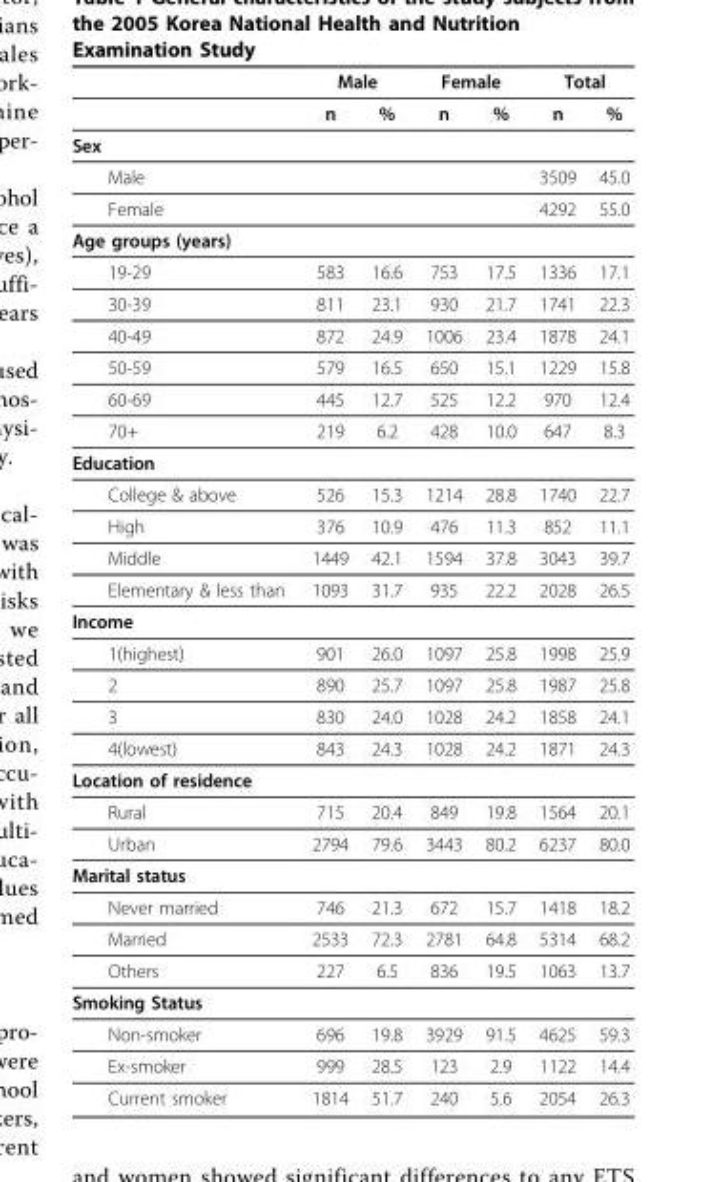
<table><thead><tr><td rowspan="2"></td><td colspan="2">Male</td><td colspan="2">Female</td><td colspan="2">Total</td></tr><tr><td>n</td><td>%</td><td>n</td><td>%</td><td>n</td><td>%</td></tr></thead><tbody><tr><td colspan="7">Sex</td></tr><tr><td>Male</td><td></td><td></td><td></td><td></td><td>3509</td><td>45.0</td></tr><tr><td>Female</td><td></td><td></td><td></td><td></td><td>4292</td><td>55.0</td></tr><tr><td colspan="7">Age groups (years)</td></tr><tr><td>19-29</td><td>583</td><td>16.6</td><td>753</td><td>17.5</td><td>1336</td><td>17.1</td></tr><tr><td>30-39</td><td>811</td><td>23.1</td><td>930</td><td>21.7</td><td>1741</td><td>22.3</td></tr><tr><td>40-49</td><td>872</td><td>24.9</td><td>1006</td><td>23.4</td><td>1878</td><td>24.1</td></tr><tr><td>50-59</td><td>579</td><td>16.5</td><td>650</td><td>15.1</td><td>1229</td><td>15.8</td></tr><tr><td>60-69</td><td>445</td><td>12.7</td><td>525</td><td>12.2</td><td>970</td><td>12.4</td></tr><tr><td>70+</td><td>219</td><td>6.2</td><td>428</td><td>10.0</td><td>647</td><td>8.3</td></tr><tr><td colspan="7">Education</td></tr><tr><td>College &amp; above</td><td>526</td><td>15.3</td><td>1214</td><td>28.8</td><td>1740</td><td>22.7</td></tr><tr><td>High</td><td>376</td><td>10.9</td><td>476</td><td>11.3</td><td>852</td><td>11.1</td></tr><tr><td>Middle</td><td>1449</td><td>42.1</td><td>1594</td><td>37.8</td><td>3043</td><td>39.7</td></tr><tr><td>Elementary &amp; less than</td><td>1093</td><td>31.7</td><td>935</td><td>22.2</td><td>2028</td><td>26.5</td></tr><tr><td colspan="7">Income</td></tr><tr><td>1(highest)</td><td>901</td><td>26.0</td><td>1097</td><td>25.8</td><td>1998</td><td>25.9</td></tr><tr><td>2</td><td>890</td><td>25.7</td><td>1097</td><td>25.8</td><td>1987</td><td>25.8</td></tr><tr><td>3</td><td>830</td><td>24.0</td><td>1028</td><td>24.2</td><td>1858</td><td>24.1</td></tr><tr><td>4(lowest)</td><td>843</td><td>24.3</td><td>1028</td><td>24.2</td><td>1871</td><td>24.3</td></tr><tr><td colspan="7">Location of residence</td></tr><tr><td>Rural</td><td>715</td><td>20.4</td><td>849</td><td>19.8</td><td>1564</td><td>20.1</td></tr><tr><td>Urban</td><td>2794</td><td>79.6</td><td>3443</td><td>80.2</td><td>6237</td><td>80.0</td></tr><tr><td colspan="7">Marital status</td></tr><tr><td>Never married</td><td>746</td><td>21.3</td><td>672</td><td>15.7</td><td>1418</td><td>18.2</td></tr><tr><td>Married</td><td>2533</td><td>72.3</td><td>2781</td><td>64.8</td><td>5314</td><td>68.2</td></tr><tr><td>Others</td><td>227</td><td>6.5</td><td>836</td><td>19.5</td><td>1063</td><td>13.7</td></tr><tr><td colspan="7">Smoking Status</td></tr><tr><td>Non-smoker</td><td>696</td><td>19.8</td><td>3929</td><td>91.5</td><td>4625</td><td>59.3</td></tr><tr><td>Ex-smoker</td><td>999</td><td>28.5</td><td>123</td><td>2.9</td><td>1122</td><td>14.4</td></tr><tr><td>Current smoker</td><td>1814</td><td>51.7</td><td>240</td><td>5.6</td><td>2054</td><td>26.3</td></tr></tbody></table>